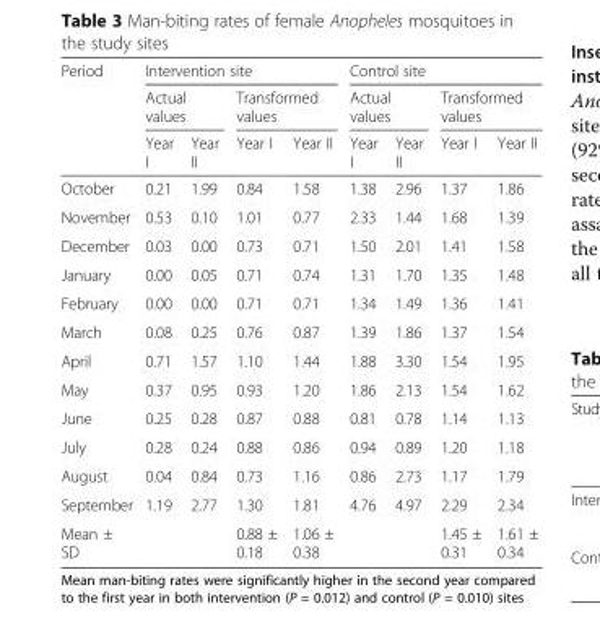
<table><thead><tr><td rowspan="3">Period</td><td colspan="4">Intervention site</td><td colspan="4">Control site</td></tr><tr><td colspan="2">Actual values</td><td colspan="2">Transformed values</td><td colspan="2">Actual values</td><td colspan="2">Transformed values</td></tr><tr><td>Year I</td><td>Year II</td><td>Year I</td><td>Year II</td><td>Year I</td><td>Year II</td><td>Year I</td><td>Year II</td></tr></thead><tbody><tr><td>October</td><td>0.21</td><td>1.99</td><td>0.84</td><td>1.58</td><td>1.38</td><td>2.96</td><td>1.37</td><td>1.86</td></tr><tr><td>November</td><td>0.53</td><td>0.10</td><td>1.01</td><td>0.77</td><td>2.33</td><td>1.44</td><td>1.68</td><td>1.39</td></tr><tr><td>December</td><td>0.03</td><td>0.00</td><td>0.73</td><td>0.71</td><td>1.50</td><td>2.01</td><td>1.41</td><td>1.58</td></tr><tr><td>January</td><td>0.00</td><td>0.05</td><td>0.71</td><td>0.74</td><td>1.31</td><td>1.70</td><td>1.35</td><td>1.48</td></tr><tr><td>February</td><td>0.00</td><td>0.00</td><td>0.71</td><td>0.71</td><td>1.34</td><td>1.49</td><td>1.36</td><td>1.41</td></tr><tr><td>March</td><td>0.08</td><td>0.25</td><td>0.76</td><td>0.87</td><td>1.39</td><td>1.86</td><td>1.37</td><td>1.54</td></tr><tr><td>April</td><td>0.71</td><td>1.57</td><td>1.10</td><td>1.44</td><td>1.88</td><td>3.30</td><td>1.54</td><td>1.95</td></tr><tr><td>May</td><td>0.37</td><td>0.95</td><td>0.93</td><td>1.20</td><td>1.86</td><td>2.13</td><td>1.54</td><td>1.62</td></tr><tr><td>June</td><td>0.25</td><td>0.28</td><td>0.87</td><td>0.88</td><td>0.81</td><td>0.78</td><td>1.14</td><td>1.13</td></tr><tr><td>July</td><td>0.28</td><td>0.24</td><td>0.88</td><td>0.86</td><td>0.94</td><td>0.89</td><td>1.20</td><td>1.18</td></tr><tr><td>August</td><td>0.04</td><td>0.84</td><td>0.73</td><td>1.16</td><td>0.86</td><td>2.73</td><td>1.17</td><td>1.79</td></tr><tr><td>September</td><td>1.19</td><td>2.77</td><td>1.30</td><td>1.81</td><td>4.76</td><td>4.97</td><td>2.29</td><td>2.34</td></tr><tr><td>Mean ± SD</td><td></td><td></td><td>0.88 ± 0.18</td><td>1.06 ± 0.38</td><td></td><td></td><td>1.45 ± 0.31</td><td>1.61 ± 0.34</td></tr></tbody></table>